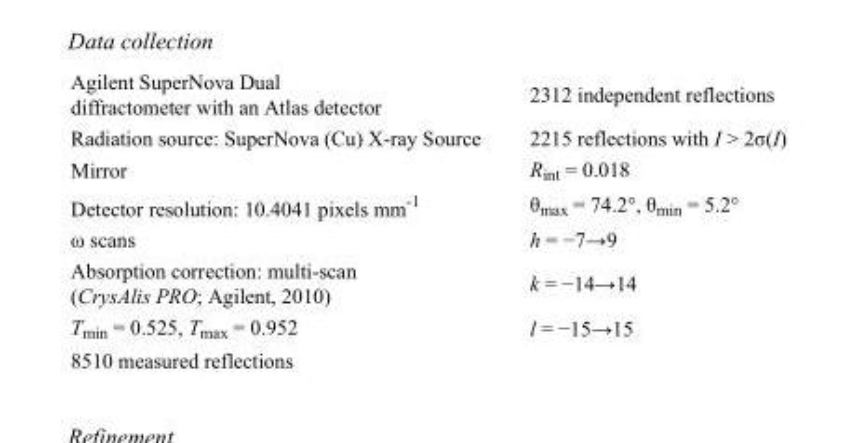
<table><tbody><tr><td>Agilent SuperNova Dual diffractometer with an Atlas detector</td><td>2312 independent reflections</td></tr><tr><td>Radiation source: SuperNova (Cu) X-ray Source</td><td>2215 reflections with I &gt; 2σ(I)</td></tr><tr><td>Mirror</td><td>R<sub>int</sub> = 0.018</td></tr><tr><td>Detector resolution: 10.4041 pixels mm<sup>-1</sup></td><td>θ<sub>max</sub> = 74.2°, θ<sub>min</sub> = 5.2°</td></tr><tr><td>ω scans</td><td>h = −7→9</td></tr><tr><td>Absorption correction: multi-scan (CrysAlis PRO; Agilent, 2010)</td><td>k = −14→14</td></tr><tr><td>T<sub>min</sub> = 0.525, T<sub>max</sub> = 0.952</td><td>l = −15→15</td></tr><tr><td>8510 measured reflections</td><td></td></tr></tbody></table>